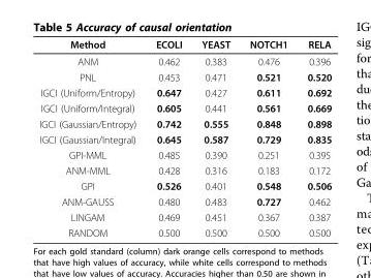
<table><thead><tr><td>Method</td><td>ECOLI</td><td>YEAST</td><td>NOTCH1</td><td>RELA</td></tr></thead><tbody><tr><td>ANM</td><td>0.462</td><td>0.383</td><td>0.476</td><td>0.396</td></tr><tr><td>PNL</td><td>0.453</td><td>0.471</td><td>0.521</td><td>0.520</td></tr><tr><td>IGCI (Uniform/Entropy)</td><td>0.647</td><td>0.427</td><td>0.611</td><td>0.692</td></tr><tr><td>IGCI (Uniform/Integral)</td><td>0.605</td><td>0.441</td><td>0.561</td><td>0.669</td></tr><tr><td>IGCI (Gaussian/Entropy)</td><td>0.742</td><td>0.555</td><td>0.848</td><td>0.898</td></tr><tr><td>IGCI (Gaussian/Integral)</td><td>0.645</td><td>0.587</td><td>0.729</td><td>0.835</td></tr><tr><td>GPI-MML</td><td>0.485</td><td>0.390</td><td>0.251</td><td>0.395</td></tr><tr><td>ANM-MML</td><td>0.428</td><td>0.316</td><td>0.183</td><td>0.172</td></tr><tr><td>GPI</td><td>0.526</td><td>0.401</td><td>0.548</td><td>0.506</td></tr><tr><td>ANM-GAUSS</td><td>0.480</td><td>0.483</td><td>0.727</td><td>0.462</td></tr><tr><td>LINGAM</td><td>0.469</td><td>0.451</td><td>0.367</td><td>0.387</td></tr><tr><td>RANDOM</td><td>0.500</td><td>0.500</td><td>0.500</td><td>0.500</td></tr></tbody></table>